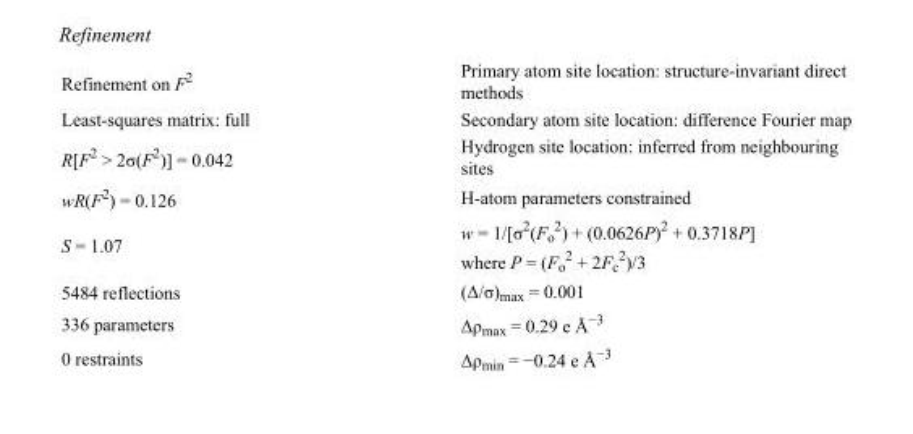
<table><tbody><tr><td>Refinement on F<sup>2</sup></td><td>Primary atom site location: structure-invariant direct methods</td></tr><tr><td>Least-squares matrix: full</td><td>Secondary atom site location: difference Fourier map</td></tr><tr><td>R[F<sup>2</sup> &gt; 2σ(F<sup>2</sup>)] = 0.042</td><td>Hydrogen site location: inferred from neighbouring sites</td></tr><tr><td>wR(F<sup>2</sup>) = 0.126</td><td>H-atom parameters constrained</td></tr><tr><td>S = 1.07</td><td>w = 1/[σ<sup>2</sup>(F<sub>o</sub> <sup>2</sup>) + (0.0626P)<sup>2</sup> + 0.3718P] where P = (F<sub>o</sub> <sup>2</sup> + 2F<sub>c</sub> <sup>2</sup>)/3</td></tr><tr><td>5484 reflections</td><td>(Δ/σ)<sub>max</sub> = 0.001</td></tr><tr><td>336 parameters</td><td>Δρmax = 0.29 e Å−3</td></tr><tr><td>0 restraints</td><td>Δρmin = −0.24 e Å−3</td></tr></tbody></table>